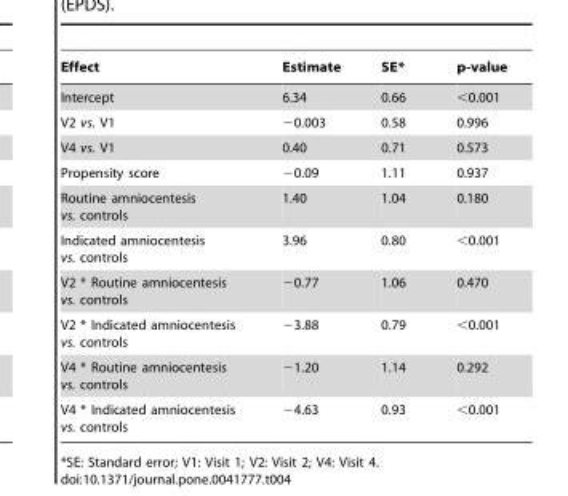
<table><thead><tr><td>Effect</td><td>Estimate</td><td>SE*</td><td>p-value</td></tr></thead><tbody><tr><td>Intercept</td><td>6.34</td><td>0.66</td><td>&lt;0.001</td></tr><tr><td>V2 vs. V1</td><td>−0.003</td><td>0.58</td><td>0.996</td></tr><tr><td>V4 vs. V1</td><td>0.40</td><td>0.71</td><td>0.573</td></tr><tr><td>Propensity score</td><td>−0.09</td><td>1.11</td><td>0.937</td></tr><tr><td>Routine amniocentesis vs. controls</td><td>1.40</td><td>1.04</td><td>0.180</td></tr><tr><td>Indicated amniocentesis vs. controls</td><td>3.96</td><td>0.80</td><td>&lt;0.001</td></tr><tr><td>V2 * Routine amniocentesis vs. controls</td><td>−0.77</td><td>1.06</td><td>0.470</td></tr><tr><td>V2 * Indicated amniocentesis vs. controls</td><td>−3.88</td><td>0.79</td><td>&lt;0.001</td></tr><tr><td>V4 * Routine amniocentesis vs. controls</td><td>−1.20</td><td>1.14</td><td>0.292</td></tr><tr><td>V4 * Indicated amniocentesis vs. controls</td><td>−4.63</td><td>0.93</td><td>&lt;0.001</td></tr></tbody></table>